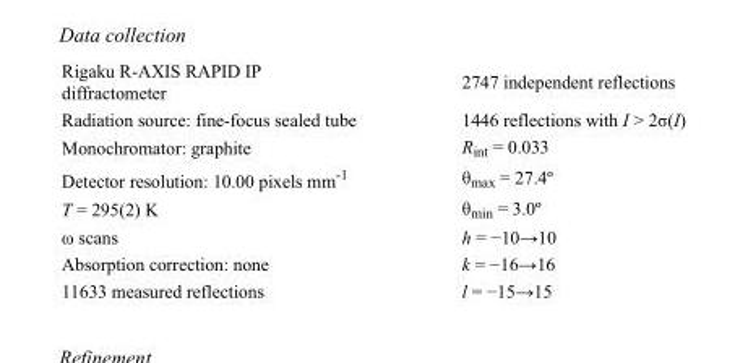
<table><tbody><tr><td>Rigaku R-AXIS RAPID IP diffractometer</td><td>2747 independent reflections</td></tr><tr><td>Radiation source: fine-focus sealed tube</td><td>1446 reflections with I &gt; 2σ(I)</td></tr><tr><td>Monochromator: graphite</td><td>R<sub>int</sub> = 0.033</td></tr><tr><td>Detector resolution: 10.00 pixels mm<sup>-1</sup></td><td>θ<sub>max</sub> = 27.4º</td></tr><tr><td>T = 295(2) K</td><td>θ<sub>min</sub> = 3.0º</td></tr><tr><td>ω scans</td><td>h = −10→10</td></tr><tr><td>Absorption correction: none</td><td>k = −16→16</td></tr><tr><td>11633 measured reflections</td><td>l = −15→15</td></tr></tbody></table>